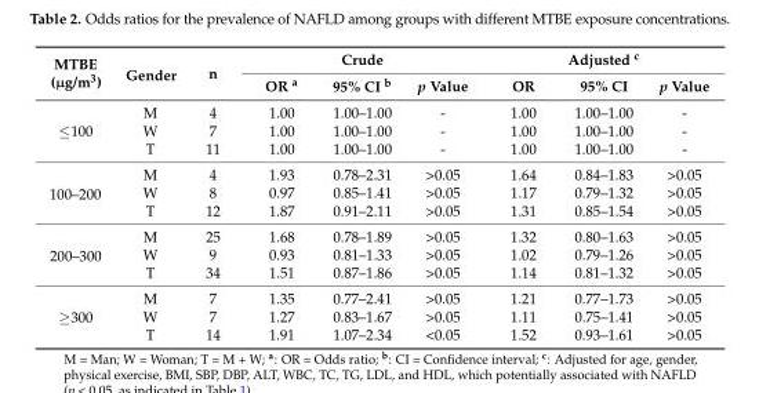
<table><thead><tr><td rowspan="2">MTBE (µg/m<sup>3</sup>)</td><td rowspan="2">Gender</td><td rowspan="2">n</td><td colspan="3">Crude</td><td colspan="3">Adjusted <sup>c</sup></td></tr><tr><td>OR <sup>a</sup></td><td>95% CI <sup>b</sup></td><td>p Value</td><td>OR</td><td>95% CI</td><td>p Value</td></tr></thead><tbody><tr><td rowspan="3">≤100</td><td>M</td><td>4</td><td>1.00</td><td>1.00–1.00</td><td>-</td><td>1.00</td><td>1.00–1.00</td><td>-</td></tr><tr><td>W</td><td>7</td><td>1.00</td><td>1.00–1.00</td><td>-</td><td>1.00</td><td>1.00–1.00</td><td>-</td></tr><tr><td>T</td><td>11</td><td>1.00</td><td>1.00–1.00</td><td>-</td><td>1.00</td><td>1.00–1.00</td><td>-</td></tr><tr><td rowspan="3">100–200</td><td>M</td><td>4</td><td>1.93</td><td>0.78–2.31</td><td>&gt;0.05</td><td>1.64</td><td>0.84–1.83</td><td>&gt;0.05</td></tr><tr><td>W</td><td>8</td><td>0.97</td><td>0.85–1.41</td><td>&gt;0.05</td><td>1.17</td><td>0.79–1.32</td><td>&gt;0.05</td></tr><tr><td>T</td><td>12</td><td>1.87</td><td>0.91–2.11</td><td>&gt;0.05</td><td>1.31</td><td>0.85–1.54</td><td>&gt;0.05</td></tr><tr><td rowspan="3">200–300</td><td>M</td><td>25</td><td>1.68</td><td>0.78–1.89</td><td>&gt;0.05</td><td>1.32</td><td>0.80–1.63</td><td>&gt;0.05</td></tr><tr><td>W</td><td>9</td><td>0.93</td><td>0.81–1.33</td><td>&gt;0.05</td><td>1.02</td><td>0.79–1.26</td><td>&gt;0.05</td></tr><tr><td>T</td><td>34</td><td>1.51</td><td>0.87–1.86</td><td>&gt;0.05</td><td>1.14</td><td>0.81–1.32</td><td>&gt;0.05</td></tr><tr><td rowspan="3">≥300</td><td>M</td><td>7</td><td>1.35</td><td>0.77–2.41</td><td>&gt;0.05</td><td>1.21</td><td>0.77–1.73</td><td>&gt;0.05</td></tr><tr><td>W</td><td>7</td><td>1.27</td><td>0.83–1.67</td><td>&gt;0.05</td><td>1.11</td><td>0.75–1.41</td><td>&gt;0.05</td></tr><tr><td>T</td><td>14</td><td>1.91</td><td>1.07–2.34</td><td>&lt;0.05</td><td>1.52</td><td>0.93–1.61</td><td>&gt;0.05</td></tr></tbody></table>